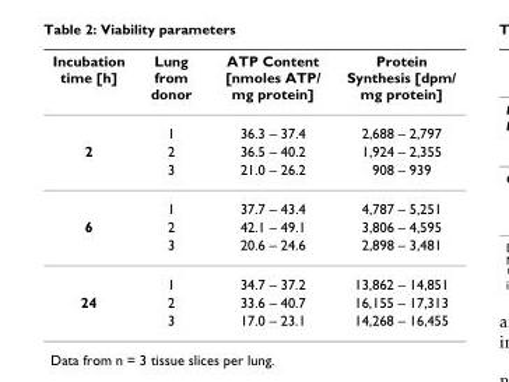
<table><thead><tr><td>Incubation time [h]</td><td>Lung from donor</td><td>ATP Content [nmoles ATP/ mg protein]</td><td>Protein Synthesis [dpm/ mg protein]</td></tr></thead><tbody><tr><td></td><td>1</td><td>36.3 – 37.4</td><td>2,688 – 2,797</td></tr><tr><td rowspan="3">2</td><td>2</td><td>36.5 – 40.2</td><td>1,924 – 2,355</td></tr><tr><td>3</td><td>21.0 – 26.2</td><td>908 – 939</td></tr><tr><td>1</td><td>37.7 – 43.4</td><td>4,787 – 5,251</td></tr><tr><td rowspan="3">6</td><td>2</td><td>42.1 – 49.1</td><td>3,806 – 4,595</td></tr><tr><td>3</td><td>20.6 – 24.6</td><td>2,898 – 3,481</td></tr><tr><td>1</td><td>34.7 – 37.2</td><td>13,862 – 14,851</td></tr><tr><td rowspan="2">24</td><td>2</td><td>33.6 – 40.7</td><td>16,155 – 17,313</td></tr><tr><td>3</td><td>17.0 – 23.1</td><td>14,268 – 16,455</td></tr></tbody></table>